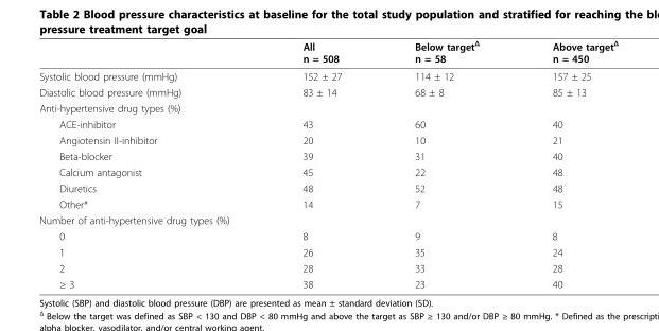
<table><thead><tr><td></td><td>All n = 508</td><td>Below target<sup>Δ</sup> n = 58</td><td>Above target<sup>Δ</sup> n = 450</td></tr></thead><tbody><tr><td>Systolic blood pressure (mmHg)</td><td>152 ± 27</td><td>114 ± 12</td><td>157 ± 25</td></tr><tr><td>Diastolic blood pressure (mmHg)</td><td>83 ± 14</td><td>68 ± 8</td><td>85 ± 13</td></tr><tr><td colspan="4">Anti-hypertensive drug types (%)</td></tr><tr><td>ACE-inhibitor</td><td>43</td><td>60</td><td>40</td></tr><tr><td>Angiotensin II-inhibitor</td><td>20</td><td>10</td><td>21</td></tr><tr><td>Beta-blocker</td><td>39</td><td>31</td><td>40</td></tr><tr><td>Calcium antagonist</td><td>45</td><td>22</td><td>48</td></tr><tr><td>Diuretics</td><td>48</td><td>52</td><td>48</td></tr><tr><td>Other*</td><td>14</td><td>7</td><td>15</td></tr><tr><td colspan="4">Number of anti-hypertensive drug types (%)</td></tr><tr><td>0</td><td>8</td><td>9</td><td>8</td></tr><tr><td>1</td><td>26</td><td>35</td><td>24</td></tr><tr><td>2</td><td>28</td><td>33</td><td>28</td></tr><tr><td>≥ 3</td><td>38</td><td>23</td><td>40</td></tr></tbody></table>